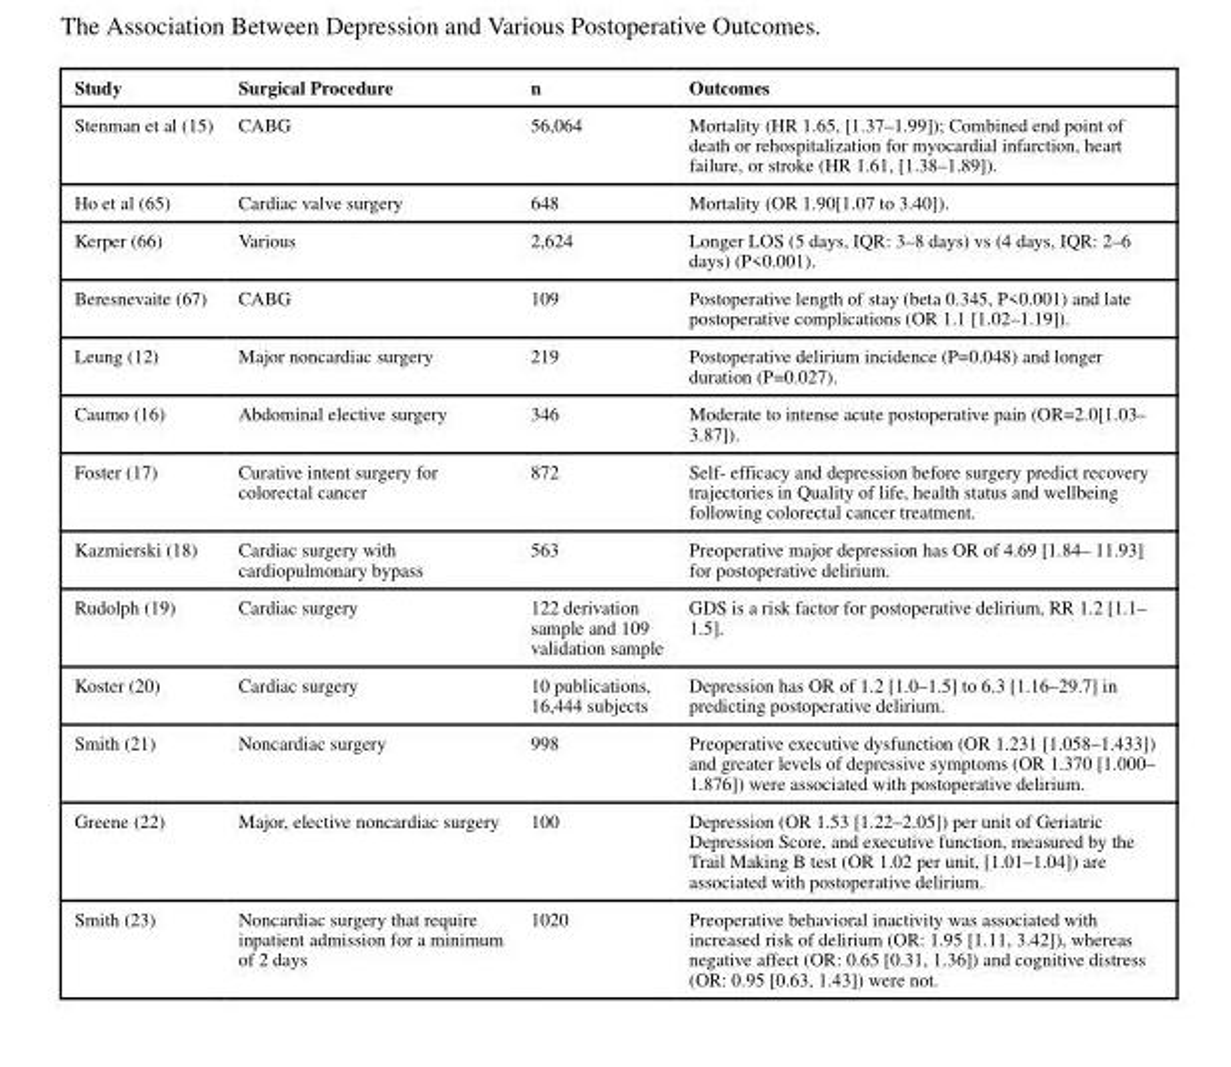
<table><thead><tr><td>Study</td><td>Surgical Procedure</td><td>n</td><td>Outcomes</td></tr></thead><tbody><tr><td>Stenman et al (15)</td><td>CABG</td><td>56,064</td><td>Mortality (HR 1.65, [1.37–1.99]); Combined end point of death or rehospitalization for myocardial infarction, heart failure, or stroke (HR 1.61, [1.38–1.89]).</td></tr><tr><td>Ho et al (65)</td><td>Cardiac valve surgery</td><td>648</td><td>Mortality (OR 1.90[1.07 to 3.40]).</td></tr><tr><td>Kerper (66)</td><td>Various</td><td>2,624</td><td>Longer LOS (5 days, IQR: 3–8 days) vs (4 days, IQR: 2–6 days) (P&lt;0.001).</td></tr><tr><td>Beresnevaite (67)</td><td>CABG</td><td>109</td><td>Postoperative length of stay (beta 0.345, P&lt;0.001) and late postoperative complications (OR 1.1 [1.02–1.19]).</td></tr><tr><td>Leung (12)</td><td>Major noncardiac surgery</td><td>219</td><td>Postoperative delirium incidence (P=0.048) and longer duration (P=0.027).</td></tr><tr><td>Caumo (16)</td><td>Abdominal elective surgery</td><td>346</td><td>Moderate to intense acute postoperative pain (OR=2.0[1.03– 3.87]).</td></tr><tr><td>Foster (17)</td><td>Curative intent surgery for colorectal cancer</td><td>872</td><td>Self- efficacy and depression before surgery predict recovery trajectories in Quality of life, health status and wellbeing following colorectal cancer treatment.</td></tr><tr><td>Kazmierski (18)</td><td>Cardiac surgery with cardiopulmonary bypass</td><td>563</td><td>Preoperative major depression has OR of 4.69 [1.84– 11.93] for postoperative delirium.</td></tr><tr><td>Rudolph (19)</td><td>Cardiac surgery</td><td>122 derivation sample and 109 validation sample</td><td>GDS is a risk factor for postoperative delirium, RR 1.2 [1.1– 1.5].</td></tr><tr><td>Koster (20)</td><td>Cardiac surgery</td><td>10 publications, 16,444 subjects</td><td>Depression has OR of 1.2 [1.0–1.5] to 6.3 [1.16–29.7] in predicting postoperative delirium.</td></tr><tr><td>Smith (21)</td><td>Noncardiac surgery</td><td>998</td><td>Preoperative executive dysfunction (OR 1.231 [1.058–1.433]) and greater levels of depressive symptoms (OR 1.370 [1.000– 1.876]) were associated with postoperative delirium.</td></tr><tr><td>Greene (22)</td><td>Major, elective noncardiac surgery</td><td>100</td><td>Depression (OR 1.53 [1.22–2.05]) per unit of Geriatric Depression Score, and executive function, measured by the Trail Making B test (OR 1.02 per unit, [1.01–1.04]) are associated with postoperative delirium.</td></tr><tr><td>Smith (23)</td><td>Noncardiac surgery that require inpatient admission for a minimum of 2 days</td><td>1020</td><td>Preoperative behavioral inactivity was associated with increased risk of delirium (OR: 1.95 [1.11, 3.42]), whereas negative affect (OR: 0.65 [0.31, 1.36]) and cognitive distress (OR: 0.95 [0.63, 1.43]) were not.</td></tr></tbody></table>